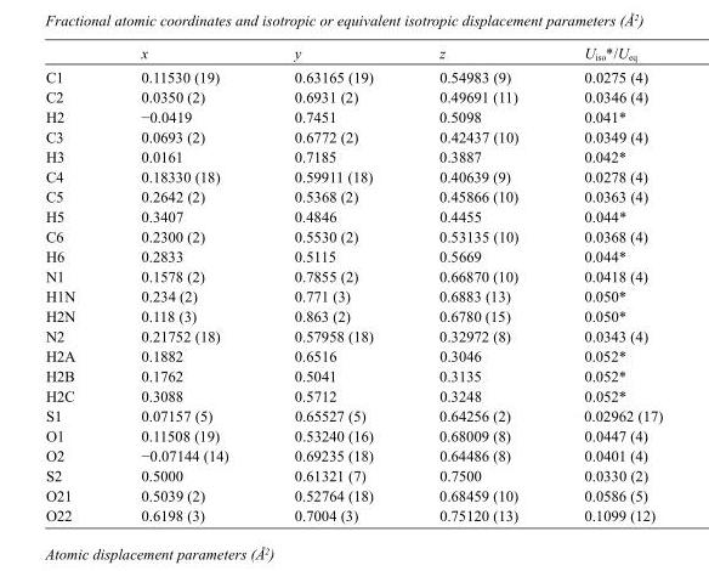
<table><thead><tr><td></td><td>x</td><td>y</td><td>z</td><td>U<sub>iso</sub>*/U<sub>eq</sub></td></tr></thead><tbody><tr><td>C1</td><td>0.11530 (19)</td><td>0.63165 (19)</td><td>0.54983 (9)</td><td>0.0275 (4)</td></tr><tr><td>C2</td><td>0.0350 (2)</td><td>0.6931 (2)</td><td>0.49691 (11)</td><td>0.0346 (4)</td></tr><tr><td>H2</td><td>−0.0419</td><td>0.7451</td><td>0.5098</td><td>0.041*</td></tr><tr><td>C3</td><td>0.0693 (2)</td><td>0.6772 (2)</td><td>0.42437 (10)</td><td>0.0349 (4)</td></tr><tr><td>H3</td><td>0.0161</td><td>0.7185</td><td>0.3887</td><td>0.042*</td></tr><tr><td>C4</td><td>0.18330 (18)</td><td>0.59911 (18)</td><td>0.40639 (9)</td><td>0.0278 (4)</td></tr><tr><td>C5</td><td>0.2642 (2)</td><td>0.5368 (2)</td><td>0.45866 (10)</td><td>0.0363 (4)</td></tr><tr><td>H5</td><td>0.3407</td><td>0.4846</td><td>0.4455</td><td>0.044*</td></tr><tr><td>C6</td><td>0.2300 (2)</td><td>0.5530 (2)</td><td>0.53135 (10)</td><td>0.0368 (4)</td></tr><tr><td>H6</td><td>0.2833</td><td>0.5115</td><td>0.5669</td><td>0.044*</td></tr><tr><td>N1</td><td>0.1578 (2)</td><td>0.7855 (2)</td><td>0.66870 (10)</td><td>0.0418 (4)</td></tr><tr><td>H1N</td><td>0.234 (2)</td><td>0.771 (3)</td><td>0.6883 (13)</td><td>0.050*</td></tr><tr><td>H2N</td><td>0.118 (3)</td><td>0.863 (2)</td><td>0.6780 (15)</td><td>0.050*</td></tr><tr><td>N2</td><td>0.21752 (18)</td><td>0.57958 (18)</td><td>0.32972 (8)</td><td>0.0343 (4)</td></tr><tr><td>H2A</td><td>0.1882</td><td>0.6516</td><td>0.3046</td><td>0.052*</td></tr><tr><td>H2B</td><td>0.1762</td><td>0.5041</td><td>0.3135</td><td>0.052*</td></tr><tr><td>H2C</td><td>0.3088</td><td>0.5712</td><td>0.3248</td><td>0.052*</td></tr><tr><td>S1</td><td>0.07157 (5)</td><td>0.65527 (5)</td><td>0.64256 (2)</td><td>0.02962 (17)</td></tr><tr><td>O1</td><td>0.11508 (19)</td><td>0.53240 (16)</td><td>0.68009 (8)</td><td>0.0447 (4)</td></tr><tr><td>O2</td><td>−0.07144 (14)</td><td>0.69235 (18)</td><td>0.64486 (8)</td><td>0.0401 (4)</td></tr><tr><td>S2</td><td>0.5000</td><td>0.61321 (7)</td><td>0.7500</td><td>0.0330 (2)</td></tr><tr><td>O21</td><td>0.5039 (2)</td><td>0.52764 (18)</td><td>0.68459 (10)</td><td>0.0586 (5)</td></tr><tr><td>O22</td><td>0.6198 (3)</td><td>0.7004 (3)</td><td>0.75120 (13)</td><td>0.1099 (12)</td></tr></tbody></table>